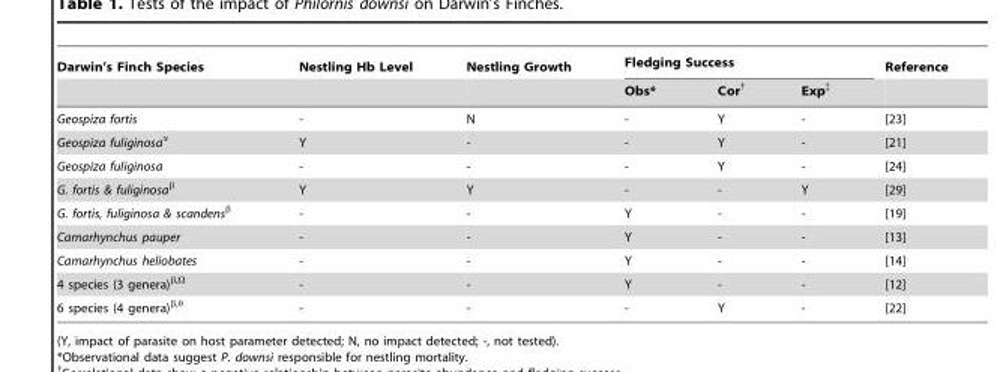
<table><thead><tr><td rowspan="2">Darwin’s Finch Species</td><td rowspan="2">Nestling Hb Level</td><td rowspan="2">Nestling Growth</td><td colspan="3">Fledging Success</td><td rowspan="2">Reference</td></tr><tr><td>Obs*</td><td>Cor†</td><td>Exp‡</td></tr></thead><tbody><tr><td>Geospiza fortis</td><td>-</td><td>N</td><td>-</td><td>Y</td><td>-</td><td>[23]</td></tr><tr><td>Geospiza fuliginosaα</td><td>Y</td><td>-</td><td>-</td><td>Y</td><td>-</td><td>[21]</td></tr><tr><td>Geospiza fuliginosa</td><td>-</td><td>-</td><td>-</td><td>Y</td><td>-</td><td>[24]</td></tr><tr><td>G. fortis &amp; fuliginosaβ</td><td>Y</td><td>Y</td><td>-</td><td>-</td><td>Y</td><td>[29]</td></tr><tr><td>G. fortis, fuliginosa &amp; scandensβ</td><td>-</td><td>-</td><td>Y</td><td>-</td><td>-</td><td>[19]</td></tr><tr><td>Camarhynchus pauper</td><td>-</td><td>-</td><td>Y</td><td>-</td><td>-</td><td>[13]</td></tr><tr><td>Camarhynchus heliobates</td><td>-</td><td>-</td><td>Y</td><td>-</td><td>-</td><td>[14]</td></tr><tr><td>4 species (3 genera)β<sup>,</sup>Ω</td><td>-</td><td>-</td><td>Y</td><td>-</td><td>-</td><td>[12]</td></tr><tr><td>6 species (4 genera)β<sup>,</sup>θ</td><td>-</td><td>-</td><td>-</td><td>Y</td><td>-</td><td>[22]</td></tr></tbody></table>